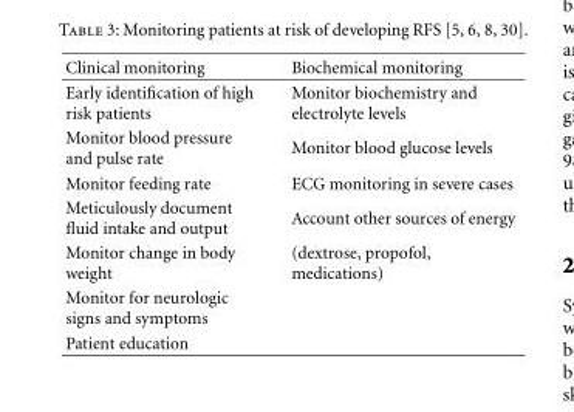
<table><thead><tr><td>Clinical monitoring</td><td>Biochemical monitoring</td></tr></thead><tbody><tr><td>Early identification of high risk patients</td><td>Monitor biochemistry and electrolyte levels</td></tr><tr><td>Monitor blood pressure and pulse rate</td><td>Monitor blood glucose levels</td></tr><tr><td>Monitor feeding rate</td><td>ECG monitoring in severe cases</td></tr><tr><td>Meticulously document fluid intake and output</td><td>Account other sources of energy</td></tr><tr><td>Monitor change in body weight</td><td>(dextrose, propofol, medications)</td></tr><tr><td colspan="2">Monitor for neurologic signs and symptoms</td></tr><tr><td>Patient education</td><td></td></tr></tbody></table>